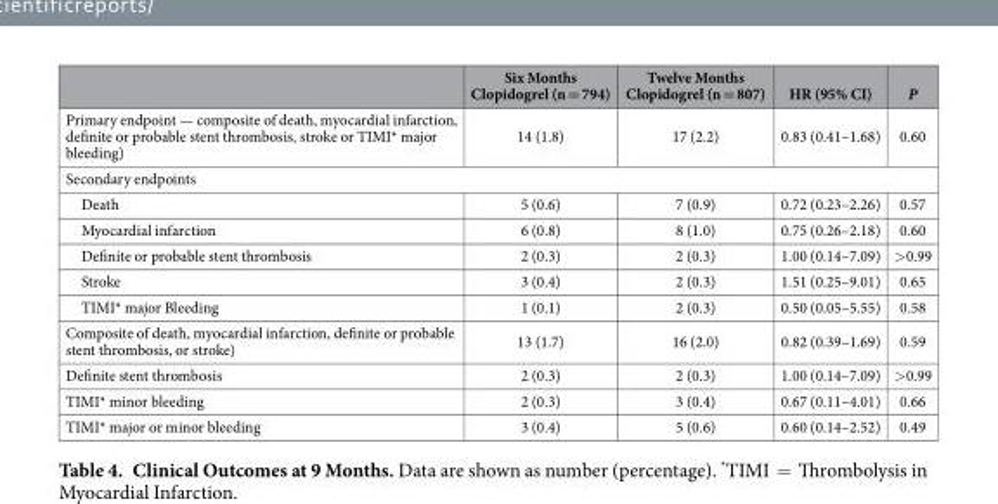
<table><thead><tr><td></td><td>Six Months Clopidogrel (n = 794)</td><td>Twelve Months Clopidogrel (n = 807)</td><td>HR (95% CI)</td><td>P</td></tr></thead><tbody><tr><td>Primary endpoint — composite of death, myocardial infarction, definite or probable stent thrombosis, stroke or TIMI* major bleeding)</td><td>14 (1.8)</td><td>17 (2.2)</td><td>0.83 (0.41–1.68)</td><td>0.60</td></tr><tr><td colspan="5">Secondary endpoints</td></tr><tr><td>Death</td><td>5 (0.6)</td><td>7 (0.9)</td><td>0.72 (0.23–2.26)</td><td>0.57</td></tr><tr><td>Myocardial infarction</td><td>6 (0.8)</td><td>8 (1.0)</td><td>0.75 (0.26–2.18)</td><td>0.60</td></tr><tr><td>Definite or probable stent thrombosis</td><td>2 (0.3)</td><td>2 (0.3)</td><td>1.00 (0.14–7.09)</td><td>&gt;0.99</td></tr><tr><td>Stroke</td><td>3 (0.4)</td><td>2 (0.3)</td><td>1.51 (0.25–9.01)</td><td>0.65</td></tr><tr><td>TIMI* major Bleeding</td><td>1 (0.1)</td><td>2 (0.3)</td><td>0.50 (0.05–5.55)</td><td>0.58</td></tr><tr><td>Composite of death, myocardial infarction, definite or probable stent thrombosis, or stroke)</td><td>13 (1.7)</td><td>16 (2.0)</td><td>0.82 (0.39–1.69)</td><td>0.59</td></tr><tr><td>Definite stent thrombosis</td><td>2 (0.3)</td><td>2 (0.3)</td><td>1.00 (0.14–7.09)</td><td>&gt;0.99</td></tr><tr><td>TIMI* minor bleeding</td><td>2 (0.3)</td><td>3 (0.4)</td><td>0.67 (0.11–4.01)</td><td>0.66</td></tr><tr><td>TIMI* major or minor bleeding</td><td>3 (0.4)</td><td>5 (0.6)</td><td>0.60 (0.14–2.52)</td><td>0.49</td></tr></tbody></table>